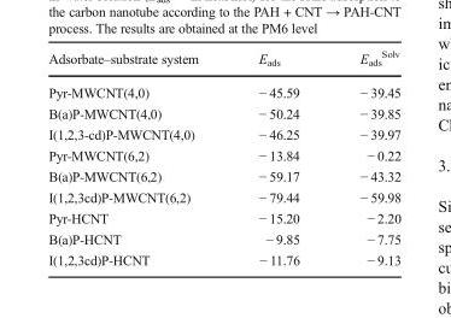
<table><thead><tr><td>Adsorbate–substrate system</td><td>E<sub>ads</sub></td><td>E<sub>ads</sub> <sup>Solv</sup></td></tr></thead><tbody><tr><td>Pyr-MWCNT(4,0)</td><td>− 45.59</td><td>− 39.45</td></tr><tr><td>B(a)P-MWCNT(4,0)</td><td>− 50.24</td><td>− 39.85</td></tr><tr><td>I(1,2,3-cd)P-MWCNT(4,0)</td><td>− 46.25</td><td>− 39.97</td></tr><tr><td>Pyr-MWCNT(6,2)</td><td>− 13.84</td><td>− 0.22</td></tr><tr><td>B(a)P-MWCNT(6,2)</td><td>− 59.17</td><td>− 43.32</td></tr><tr><td>I(1,2,3cd)P-MWCNT(6,2)</td><td>− 79.44</td><td>− 59.98</td></tr><tr><td>Pyr-HCNT</td><td>− 15.20</td><td>− 2.20</td></tr><tr><td>B(a)P-HCNT</td><td>− 9.85</td><td>− 7.75</td></tr><tr><td>I(1,2,3cd)P-HCNT</td><td>− 11.76</td><td>− 9.13</td></tr></tbody></table>